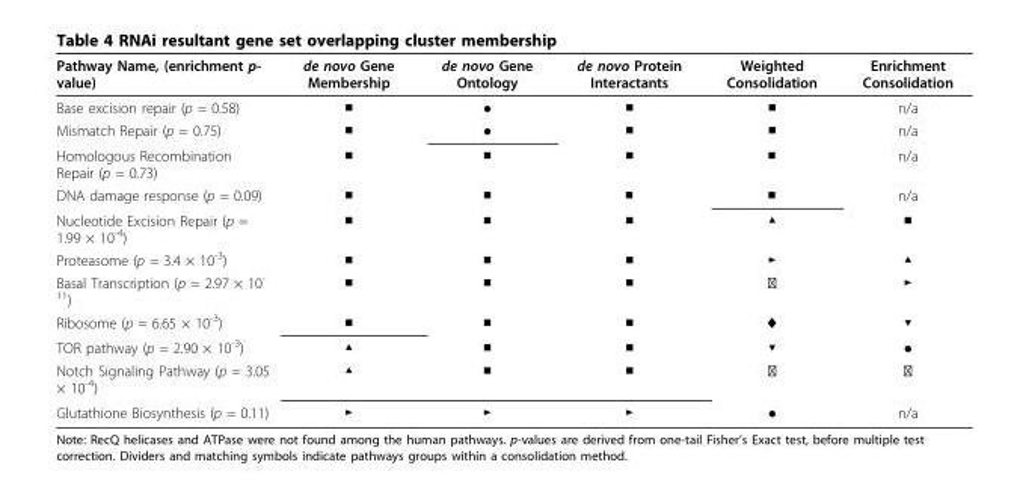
<table><thead><tr><td>Pathway Name, (enrichment p- value)</td><td>de novo Gene Membership</td><td>de novo Gene Ontology</td><td>de novo Protein Interactants</td><td>Weighted Consolidation</td><td>Enrichment Consolidation</td></tr></thead><tbody><tr><td>Base excision repair (p = 0.58)</td><td>■</td><td>●</td><td>■</td><td>■</td><td>n/a</td></tr><tr><td>Mismatch Repair (p = 0.75)</td><td>■</td><td>●</td><td>■</td><td>■</td><td>n/a</td></tr><tr><td>Homologous Recombination Repair (p = 0.73)</td><td>■</td><td>■</td><td>■</td><td>■</td><td>n/a</td></tr><tr><td>DNA damage response (p = 0.09)</td><td>■</td><td>■</td><td>■</td><td>■</td><td>n/a</td></tr><tr><td>Nucleotide Excision Repair (p = 1.99 × 10<sup>-4</sup>)</td><td>■</td><td>■</td><td>■</td><td>▲</td><td>■</td></tr><tr><td>Proteasome (p = 3.4 × 10<sup>-3</sup>)</td><td>■</td><td>■</td><td>■</td><td>►</td><td>▲</td></tr><tr><td>Basal Transcription (p = 2.97 × 10<sup>- 11</sup>)</td><td>■</td><td>■</td><td>■</td><td>◄</td><td>►</td></tr><tr><td>Ribosome (p = 6.65 × 10<sup>-3</sup>)</td><td>■</td><td>■</td><td>■</td><td>♦</td><td>▼</td></tr><tr><td>TOR pathway (p = 2.90 × 10<sup>-3</sup>)</td><td>▲</td><td>■</td><td>■</td><td>▼</td><td>●</td></tr><tr><td>Notch Signaling Pathway (p = 3.05 × 10<sup>-4</sup>)</td><td>▲</td><td>■</td><td>■</td><td>◘</td><td>◄</td></tr><tr><td>Glutathione Biosynthesis (p = 0.11)</td><td>►</td><td>►</td><td>►</td><td>●</td><td>n/a</td></tr></tbody></table>